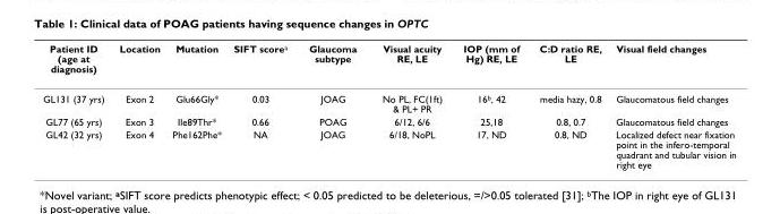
<table><thead><tr><td>Patient ID (age at diagnosis)</td><td>Location</td><td>Mutation</td><td>SIFT scorea</td><td>Glaucoma subtype</td><td>Visual acuity RE, LE</td><td>IOP (mm of Hg) RE, LE</td><td>C:D ratio RE, LE</td><td>Visual field changes</td></tr></thead><tbody><tr><td>GL131 (37 yrs)</td><td>Exon 2</td><td>Glu66Gly*</td><td>0.03</td><td>JOAG</td><td>No PL, FC(1ft) &amp; PL+ PR</td><td>16b, 42</td><td>media hazy, 0.8</td><td>Glaucomatous field changes</td></tr><tr><td>GL77 (65 yrs)</td><td>Exon 3</td><td>Ile89Thr*</td><td>0.66</td><td>POAG</td><td>6/12, 6/6</td><td>25,18</td><td>0.8, 0.7</td><td>Glaucomatous field changes</td></tr><tr><td>GL42 (32 yrs)</td><td>Exon 4</td><td>Phe162Phe*</td><td>NA</td><td>JOAG</td><td>6/18, NoPL</td><td>17, ND</td><td>0.8, ND</td><td>Localized defect near fixation point in the infero-temporal quadrant and tubular vision in right eye</td></tr></tbody></table>